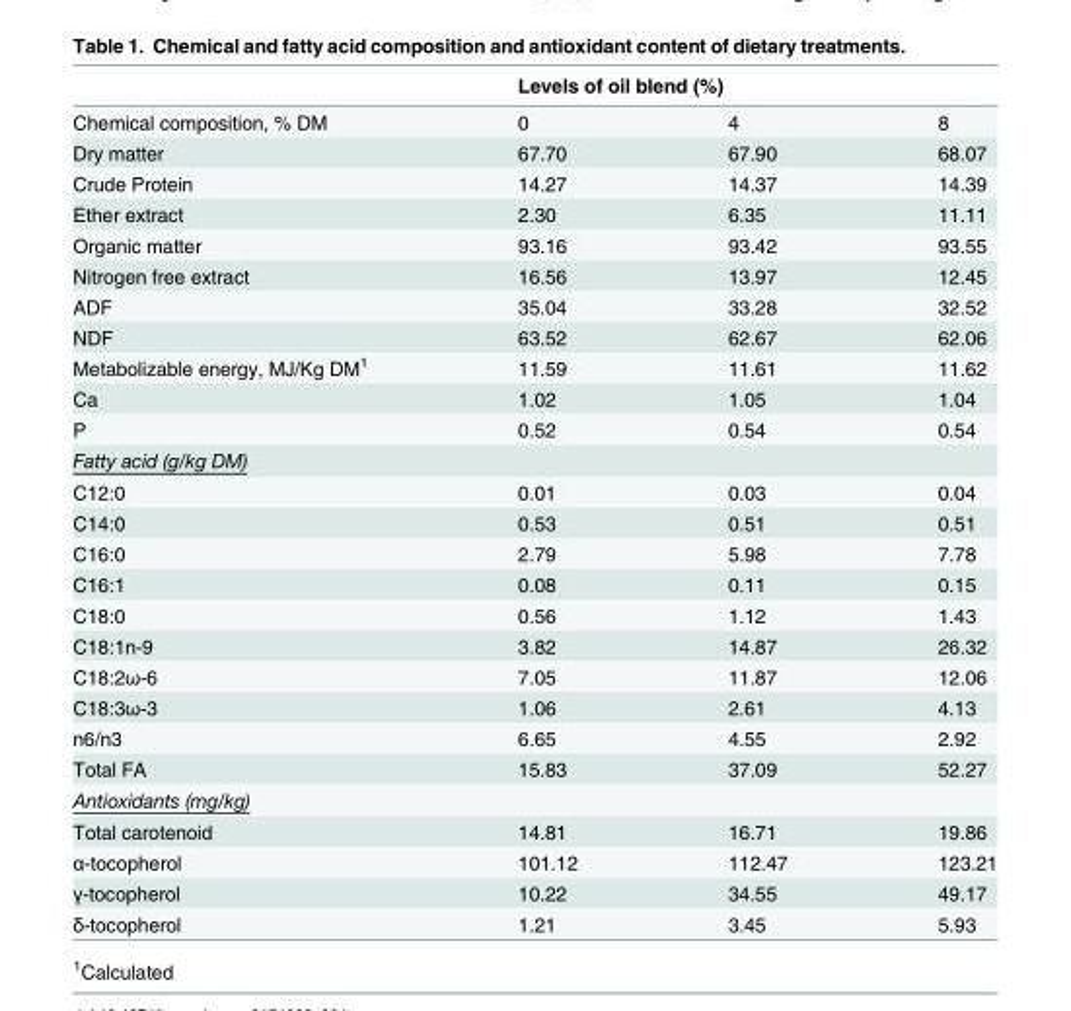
<table><thead><tr><td rowspan="2">Chemical composition, % DM</td><td colspan="3">Levels of oil blend (%)</td></tr><tr><td>0</td><td>4</td><td>8</td></tr></thead><tbody><tr><td>Dry matter</td><td>67.70</td><td>67.90</td><td>68.07</td></tr><tr><td>Crude Protein</td><td>14.27</td><td>14.37</td><td>14.39</td></tr><tr><td>Ether extract</td><td>2.30</td><td>6.35</td><td>11.11</td></tr><tr><td>Organic matter</td><td>93.16</td><td>93.42</td><td>93.55</td></tr><tr><td>Nitrogen free extract</td><td>16.56</td><td>13.97</td><td>12.45</td></tr><tr><td>ADF</td><td>35.04</td><td>33.28</td><td>32.52</td></tr><tr><td>NDF</td><td>63.52</td><td>62.67</td><td>62.06</td></tr><tr><td>Metabolizable energy, MJ/Kg DM<sup>1</sup></td><td>11.59</td><td>11.61</td><td>11.62</td></tr><tr><td>Ca</td><td>1.02</td><td>1.05</td><td>1.04</td></tr><tr><td>P</td><td>0.52</td><td>0.54</td><td>0.54</td></tr><tr><td colspan="4">Fatty acid (g/kg DM)</td></tr><tr><td>C12:0</td><td>0.01</td><td>0.03</td><td>0.04</td></tr><tr><td>C14:0</td><td>0.53</td><td>0.51</td><td>0.51</td></tr><tr><td>C16:0</td><td>2.79</td><td>5.98</td><td>7.78</td></tr><tr><td>C16:1</td><td>0.08</td><td>0.11</td><td>0.15</td></tr><tr><td>C18:0</td><td>0.56</td><td>1.12</td><td>1.43</td></tr><tr><td>C18:1n-9</td><td>3.82</td><td>14.87</td><td>26.32</td></tr><tr><td>C18:2ω-6</td><td>7.05</td><td>11.87</td><td>12.06</td></tr><tr><td>C18:3ω-3</td><td>1.06</td><td>2.61</td><td>4.13</td></tr><tr><td>n6/n3</td><td>6.65</td><td>4.55</td><td>2.92</td></tr><tr><td>Total FA</td><td>15.83</td><td>37.09</td><td>52.27</td></tr><tr><td colspan="4">Antioxidants (mg/kg)</td></tr><tr><td>Total carotenoid</td><td>14.81</td><td>16.71</td><td>19.86</td></tr><tr><td>α-tocopherol</td><td>101.12</td><td>112.47</td><td>123.21</td></tr><tr><td>γ-tocopherol</td><td>10.22</td><td>34.55</td><td>49.17</td></tr><tr><td>δ-tocopherol</td><td>1.21</td><td>3.45</td><td>5.93</td></tr></tbody></table>